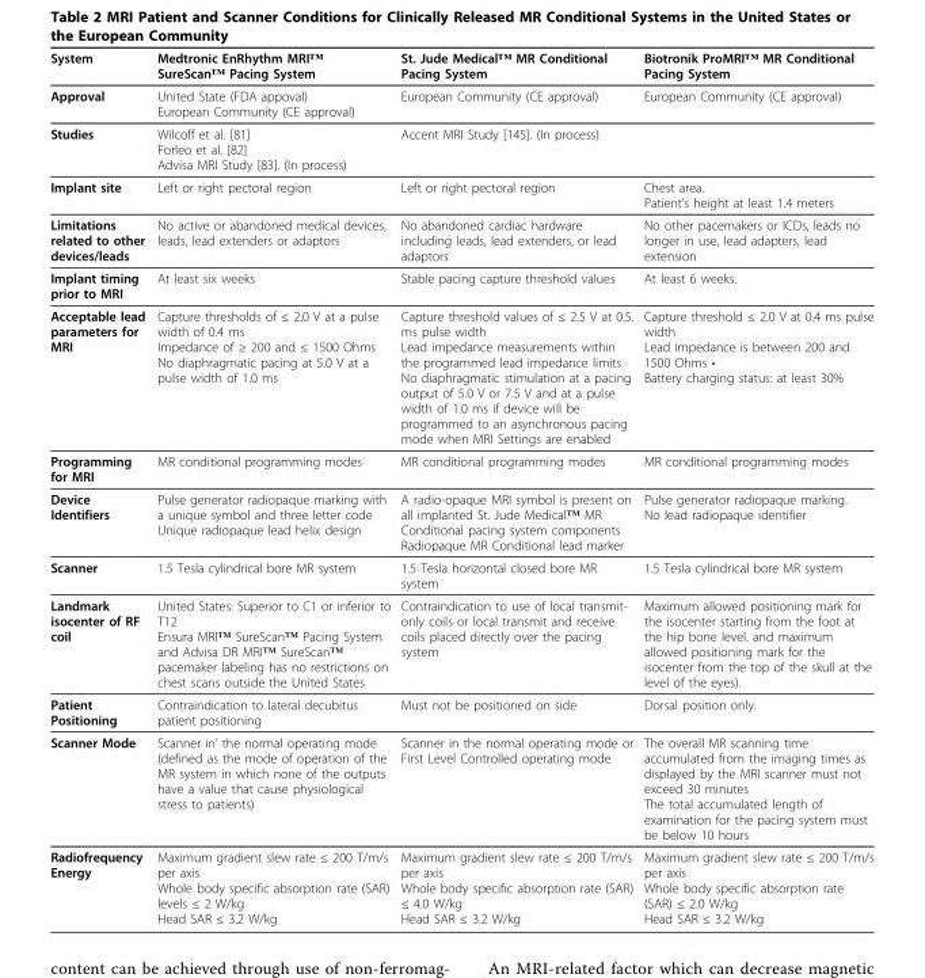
<table><thead><tr><td>System</td><td>Medtronic EnRhythm MRI™ SureScan™ Pacing System</td><td>St. Jude Medical™ MR Conditional Pacing System</td><td>Biotronik ProMRI™ MR Conditional Pacing System</td></tr></thead><tbody><tr><td>Approval</td><td>United State (FDA appoval) European Community (CE approval)</td><td>European Community (CE approval)</td><td>European Community (CE approval)</td></tr><tr><td>Studies</td><td>Wilcoff et al. [81] Forleo et al. [82] Advisa MRI Study [83]. (In process)</td><td>Accent MRI Study [145]. (In process)</td><td></td></tr><tr><td>Implant site</td><td>Left or right pectoral region</td><td>Left or right pectoral region</td><td>Chest area. Patient’s height at least 1.4 meters</td></tr><tr><td>Limitations related to other devices/leads</td><td>No active or abandoned medical devices, leads, lead extenders or adaptors</td><td>No abandoned cardiac hardware including leads, lead extenders, or lead adaptors</td><td>No other pacemakers or ICDs, leads no longer in use, lead adapters, lead extension</td></tr><tr><td>Implant timing prior to MRI</td><td>At least six weeks</td><td>Stable pacing capture threshold values</td><td>At least 6 weeks.</td></tr><tr><td>Acceptable lead parameters for MRI</td><td>Capture thresholds of ≤ 2.0 V at a pulse width of 0.4 ms Impedance of ≥ 200 and ≤ 1500 Ohms No diaphragmatic pacing at 5.0 V at a pulse width of 1.0 ms</td><td>Capture threshold values of ≤ 2.5 V at 0.5. ms pulse width Lead impedance measurements within the programmed lead impedance limits No diaphragmatic stimulation at a pacing output of 5.0 V or 7.5 V and at a pulse width of 1.0 ms if device will be programmed to an asynchronous pacing mode when MRI Settings are enabled</td><td>Capture threshold ≤ 2.0 V at 0.4 ms pulse width Lead impedance is between 200 and 1500 Ohms • Battery charging status: at least 30%</td></tr><tr><td>Programming for MRI</td><td>MR conditional programming modes</td><td>MR conditional programming modes</td><td>MR conditional programming modes</td></tr><tr><td>Device Identifiers</td><td>Pulse generator radiopaque marking with a unique symbol and three letter code Unique radiopaque lead helix design</td><td>A radio-opaque MRI symbol is present on all implanted St. Jude Medical™ MR Conditional pacing system components Radiopaque MR Conditional lead marker</td><td>Pulse generator radiopaque marking. No lead radiopaque identifier</td></tr><tr><td>Scanner</td><td>1.5 Tesla cylindrical bore MR system</td><td>1.5 Tesla horizontal closed bore MR system</td><td>1.5 Tesla cylindrical bore MR system</td></tr><tr><td>Landmark isocenter of RF coil</td><td>United States: Superior to C1 or inferior to T12 Ensura MRI™ SureScan™ Pacing System and Advisa DR MRI™ SureScan™ pacemaker labeling has no restrictions on chest scans outside the United States</td><td>Contraindication to use of local transmit- only coils or local transmit and receive coils placed directly over the pacing system</td><td>Maximum allowed positioning mark for the isocenter starting from the foot at the hip bone level. and maximum allowed positioning mark for the isocenter from the top of the skull at the level of the eyes).</td></tr><tr><td>Patient Positioning</td><td>Contraindication to lateral decubitus patient positioning</td><td>Must not be positioned on side</td><td>Dorsal position only.</td></tr><tr><td>Scanner Mode</td><td>Scanner in’ the normal operating mode (defined as the mode of operation of the MR system in which none of the outputs have a value that cause physiological stress to patients)</td><td>Scanner in the normal operating mode or First Level Controlled operating mode</td><td>The overall MR scanning time accumulated from the imaging times as displayed by the MRI scanner must not exceed 30 minutes The total accumulated length of examination for the pacing system must be below 10 hours</td></tr><tr><td>Radiofrequency Energy</td><td>Maximum gradient slew rate ≤ 200 T/m/s per axis Whole body specific absorption rate (SAR) levels ≤ 2 W/kg Head SAR ≤ 3.2 W/kg</td><td>Maximum gradient slew rate ≤ 200 T/m/s per axis Whole body specific absorption rate (SAR) ≤ 4.0 W/kg Head SAR ≤ 3.2 W/kg</td><td>Maximum gradient slew rate ≤ 200 T/m/s per axis Whole body specific absorption rate (SAR) ≤ 2.0 W/kg Head SAR ≤ 3.2 W/kg</td></tr></tbody></table>